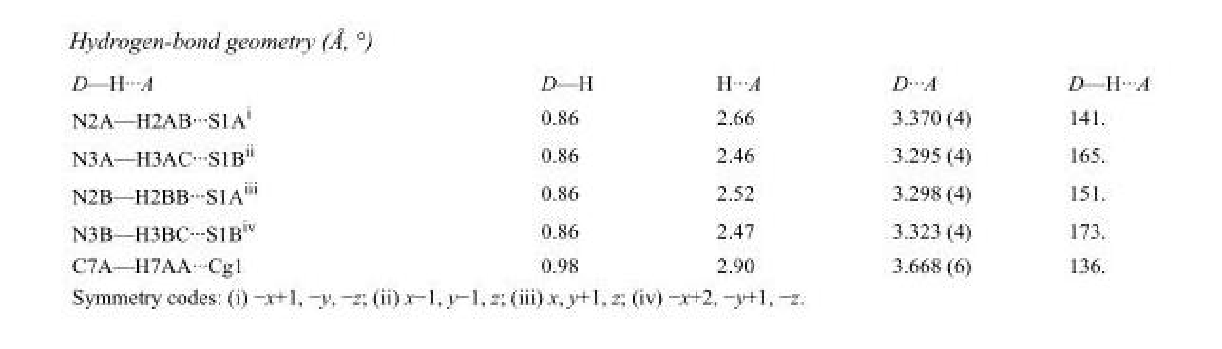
<table><tbody><tr><td>D—H···A</td><td>D—H</td><td>H···A</td><td>D···A</td><td>D—H···A</td></tr><tr><td>N2A—H2AB···S1A<sup>i</sup></td><td>0.86</td><td>2.66</td><td>3.370 (4)</td><td>141.</td></tr><tr><td>N3A—H3AC···S1B<sup>ii</sup></td><td>0.86</td><td>2.46</td><td>3.295 (4)</td><td>165.</td></tr><tr><td>N2B—H2BB···S1A<sup>iii</sup></td><td>0.86</td><td>2.52</td><td>3.298 (4)</td><td>151.</td></tr><tr><td>N3B—H3BC···S1B<sup>iv</sup></td><td>0.86</td><td>2.47</td><td>3.323 (4)</td><td>173.</td></tr><tr><td>C7A—H7AA···Cg1</td><td>0.98</td><td>2.90</td><td>3.668 (6)</td><td>136.</td></tr></tbody></table>